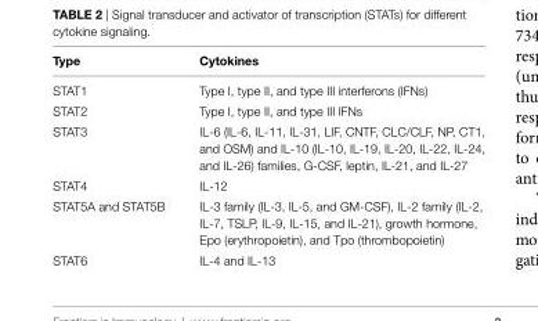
<table><thead><tr><td>Type</td><td>Cytokines</td></tr></thead><tbody><tr><td>STAT1</td><td>Type I, type II, and type III interferons (IFNs)</td></tr><tr><td>STAT2</td><td>Type I, type II, and type III IFNs</td></tr><tr><td>STAT3</td><td>IL-6 (IL-6, IL-11, IL-31, LIF, CNTF, CLC/CLF, NP, CT1, and OSM) and IL-10 (IL-10, IL-19, IL-20, IL-22, IL-24, and IL-26) families, G-CSF, leptin, IL-21, and IL-27</td></tr><tr><td>STAT4</td><td>IL-12</td></tr><tr><td>STAT5A and STAT5B</td><td>IL-3 family (IL-3, IL-5, and GM-CSF), IL-2 family (IL-2, IL-7, TSLP, IL-9, IL-15, and IL-21), growth hormone, Epo (erythropoietin), and Tpo (thrombopoietin)</td></tr><tr><td>STAT6</td><td>IL-4 and IL-13</td></tr></tbody></table>